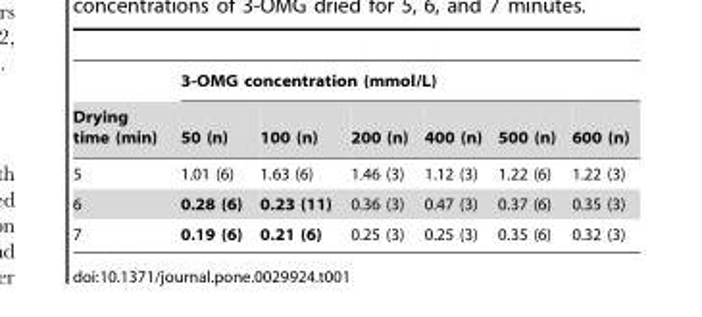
<table><thead><tr><td rowspan="2">Drying time (min)</td><td colspan="6">3-OMG concentration (mmol/L)</td></tr><tr><td>50 (n)</td><td>100 (n)</td><td>200 (n)</td><td>400 (n)</td><td>500 (n)</td><td>600 (n)</td></tr></thead><tbody><tr><td>5</td><td>1.01 (6)</td><td>1.63 (6)</td><td>1.46 (3)</td><td>1.12 (3)</td><td>1.22 (6)</td><td>1.22 (3)</td></tr><tr><td>6</td><td>0.28 (6)</td><td>0.23 (11)</td><td>0.36 (3)</td><td>0.47 (3)</td><td>0.37 (6)</td><td>0.35 (3)</td></tr><tr><td>7</td><td>0.19 (6)</td><td>0.21 (6)</td><td>0.25 (3)</td><td>0.25 (3)</td><td>0.35 (6)</td><td>0.32 (3)</td></tr></tbody></table>